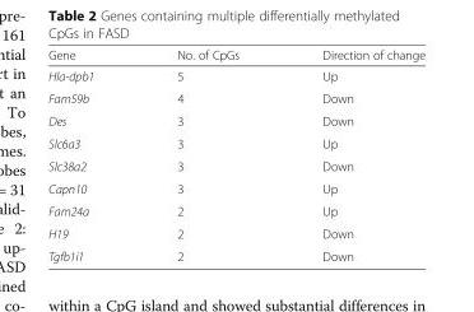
<table><thead><tr><td>Gene</td><td>No. of CpGs</td><td>Direction of change</td></tr></thead><tbody><tr><td>Hla-dpb1</td><td>5</td><td>Up</td></tr><tr><td>Fam59b</td><td>4</td><td>Down</td></tr><tr><td>Des</td><td>3</td><td>Down</td></tr><tr><td>Slc6a3</td><td>3</td><td>Up</td></tr><tr><td>Slc38a2</td><td>3</td><td>Down</td></tr><tr><td>Capn10</td><td>3</td><td>Up</td></tr><tr><td>Fam24a</td><td>2</td><td>Up</td></tr><tr><td>H19</td><td>2</td><td>Down</td></tr><tr><td>Tgfb1i1</td><td>2</td><td>Down</td></tr></tbody></table>